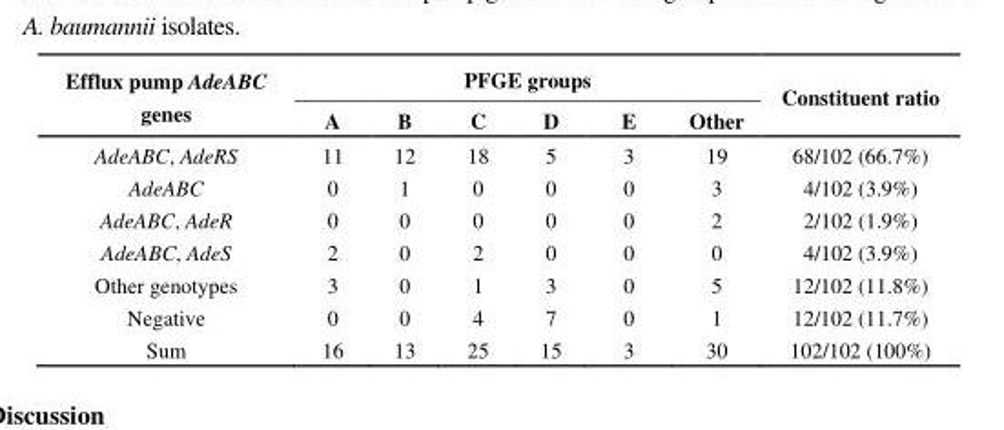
<table><thead><tr><td rowspan="2">Efflux pump AdeABC genes</td><td colspan="6">PFGE groups</td><td rowspan="2">Constituent ratio</td></tr><tr><td>A</td><td>B</td><td>C</td><td>D</td><td>E</td><td>Other</td></tr></thead><tbody><tr><td>AdeABC, AdeRS</td><td>11</td><td>12</td><td>18</td><td>5</td><td>3</td><td>19</td><td>68/102 (66.7%)</td></tr><tr><td>AdeABC</td><td>0</td><td>1</td><td>0</td><td>0</td><td>0</td><td>3</td><td>4/102 (3.9%)</td></tr><tr><td>AdeABC, AdeR</td><td>0</td><td>0</td><td>0</td><td>0</td><td>0</td><td>2</td><td>2/102 (1.9%)</td></tr><tr><td>AdeABC, AdeS</td><td>2</td><td>0</td><td>2</td><td>0</td><td>0</td><td>0</td><td>4/102 (3.9%)</td></tr><tr><td>Other genotypes</td><td>3</td><td>0</td><td>1</td><td>3</td><td>0</td><td>5</td><td>12/102 (11.8%)</td></tr><tr><td>Negative</td><td>0</td><td>0</td><td>4</td><td>7</td><td>0</td><td>1</td><td>12/102 (11.7%)</td></tr><tr><td>Sum</td><td>16</td><td>13</td><td>25</td><td>15</td><td>3</td><td>30</td><td>102/102 (100%)</td></tr></tbody></table>